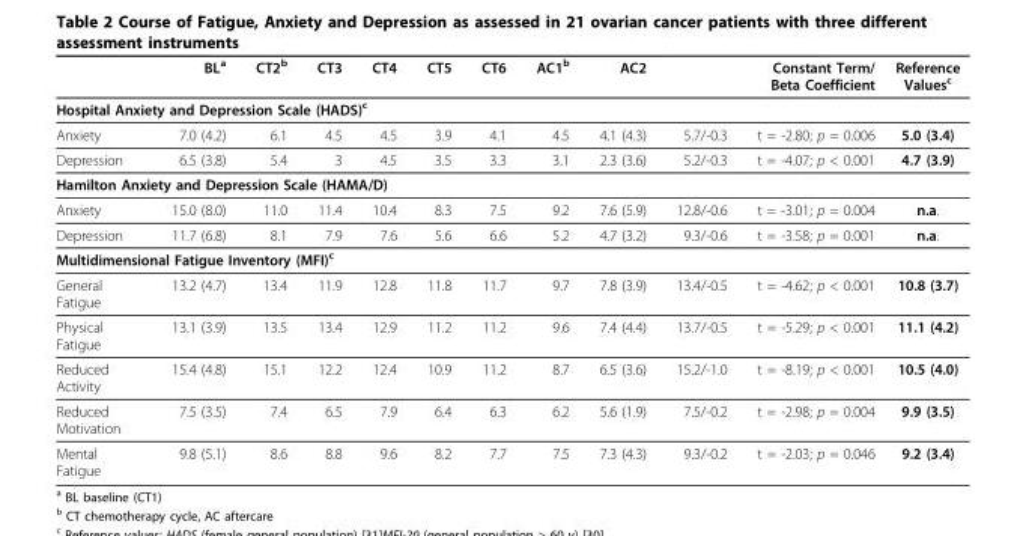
<table><thead><tr><td></td><td>BL<sup>a</sup></td><td>CT2<sup>b</sup></td><td>CT3</td><td>CT4</td><td>CT5</td><td>CT6</td><td>AC1<sup>b</sup></td><td>AC2</td><td colspan="2">Constant Term/ Beta Coefficient</td><td rowspan="3">Reference Values<sup>c</sup> 5.0 (3.4)</td></tr><tr><td colspan="11">Hospital Anxiety and Depression Scale (HADS)<sup>c</sup></td></tr><tr><td>Anxiety</td><td>7.0 (4.2)</td><td>6.1</td><td>4.5</td><td>4.5</td><td>3.9</td><td>4.1</td><td>4.5</td><td>4.1 (4.3)</td><td>5.7/-0.3</td><td>t = -2.80; p = 0.006</td></tr></thead><tbody><tr><td>Depression</td><td>6.5 (3.8)</td><td>5.4</td><td>3</td><td>4.5</td><td>3.5</td><td>3.3</td><td>3.1</td><td>2.3 (3.6)</td><td>5.2/-0.3</td><td>t = -4.07; p &lt; 0.001</td><td>4.7 (3.9)</td></tr><tr><td colspan="12">Hamilton Anxiety and Depression Scale (HAMA/D)</td></tr><tr><td>Anxiety</td><td>15.0 (8.0)</td><td>11.0</td><td>11.4</td><td>10.4</td><td>8.3</td><td>7.5</td><td>9.2</td><td>7.6 (5.9)</td><td>12.8/-0.6</td><td>t = -3.01; p = 0.004</td><td>n.a.</td></tr><tr><td>Depression</td><td>11.7 (6.8)</td><td>8.1</td><td>7.9</td><td>7.6</td><td>5.6</td><td>6.6</td><td>5.2</td><td>4.7 (3.2)</td><td>9.3/-0.6</td><td>t = -3.58; p = 0.001</td><td>n.a.</td></tr><tr><td colspan="12">Multidimensional Fatigue Inventory (MFI)<sup>c</sup></td></tr><tr><td>General Fatigue</td><td>13.2 (4.7)</td><td>13.4</td><td>11.9</td><td>12.8</td><td>11.8</td><td>11.7</td><td>9.7</td><td>7.8 (3.9)</td><td>13.4/-0.5</td><td>t = -4.62; p &lt; 0.001</td><td>10.8 (3.7)</td></tr><tr><td>Physical Fatigue</td><td>13.1 (3.9)</td><td>13.5</td><td>13.4</td><td>12.9</td><td>11.2</td><td>11.2</td><td>9.6</td><td>7.4 (4.4)</td><td>13.7/-0.5</td><td>t = -5.29; p &lt; 0.001</td><td>11.1 (4.2)</td></tr><tr><td>Reduced Activity</td><td>15.4 (4.8)</td><td>15.1</td><td>12.2</td><td>12.4</td><td>10.9</td><td>11.2</td><td>8.7</td><td>6.5 (3.6)</td><td>15.2/-1.0</td><td>t = -8.19; p &lt; 0.001</td><td>10.5 (4.0)</td></tr><tr><td>Reduced Motivation</td><td>7.5 (3.5)</td><td>7.4</td><td>6.5</td><td>7.9</td><td>6.4</td><td>6.3</td><td>6.2</td><td>5.6 (1.9)</td><td>7.5/-0.2</td><td>t = -2.98; p = 0.004</td><td>9.9 (3.5)</td></tr><tr><td>Mental Fatigue</td><td>9.8 (5.1)</td><td>8.6</td><td>8.8</td><td>9.6</td><td>8.2</td><td>7.7</td><td>7.5</td><td>7.3 (4.3)</td><td>9.3/-0.2</td><td>t = -2.03; p = 0.046</td><td>9.2 (3.4)</td></tr></tbody></table>